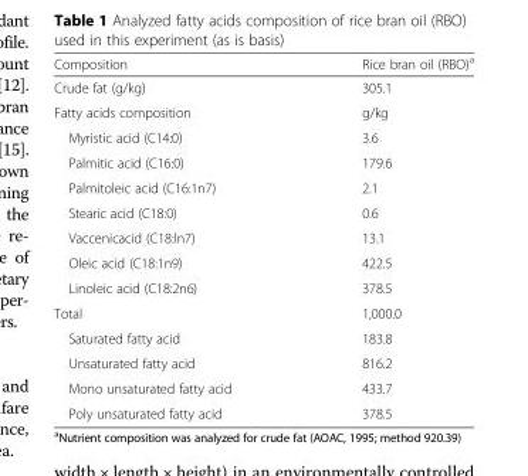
<table><thead><tr><td>Composition</td><td>Rice bran oil (RBO)<sup>a</sup></td></tr></thead><tbody><tr><td>Crude fat (g/kg)</td><td>305.1</td></tr><tr><td>Fatty acids composition</td><td>g/kg</td></tr><tr><td>Myristic acid (C14:0)</td><td>3.6</td></tr><tr><td>Palmitic acid (C16:0)</td><td>179.6</td></tr><tr><td>Palmitoleic acid (C16:1n7)</td><td>2.1</td></tr><tr><td>Stearic acid (C18:0)</td><td>0.6</td></tr><tr><td>Vaccenicacid (C18:ln7)</td><td>13.1</td></tr><tr><td>Oleic acid (C18:1n9)</td><td>422.5</td></tr><tr><td>Linoleic acid (C18:2n6)</td><td>378.5</td></tr><tr><td>Total</td><td>1,000.0</td></tr><tr><td>Saturated fatty acid</td><td>183.8</td></tr><tr><td>Unsaturated fatty acid</td><td>816.2</td></tr><tr><td>Mono unsaturated fatty acid</td><td>433.7</td></tr><tr><td>Poly unsaturated fatty acid</td><td>378.5</td></tr></tbody></table>